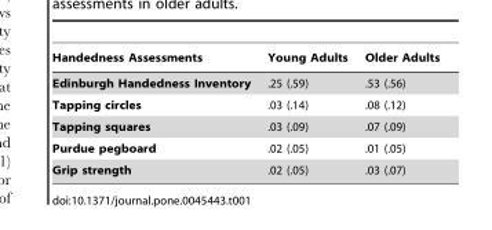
<table><thead><tr><td>Handedness Assessments</td><td>Young Adults</td><td>Older Adults</td></tr></thead><tbody><tr><td>Edinburgh Handedness Inventory</td><td>.25 (.59)</td><td>.53 (.56)</td></tr><tr><td>Tapping circles</td><td>.03 (.14)</td><td>.08 (.12)</td></tr><tr><td>Tapping squares</td><td>.03 (.09)</td><td>.07 (.09)</td></tr><tr><td>Purdue pegboard</td><td>.02 (.05)</td><td>.01 (.05)</td></tr><tr><td>Grip strength</td><td>.02 (.05)</td><td>.03 (.07)</td></tr></tbody></table>